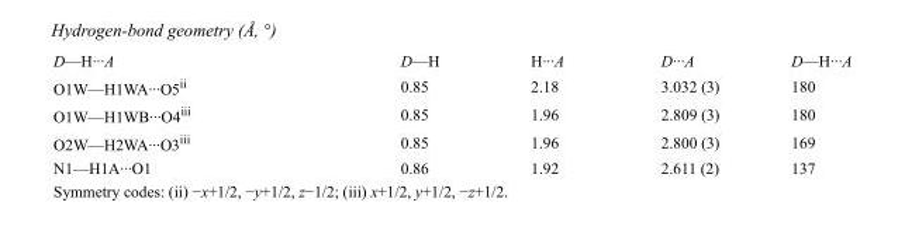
<table><tbody><tr><td>D—H···A</td><td>D—H</td><td>H···A</td><td>D···A</td><td>D—H···A</td></tr><tr><td>O1W—H1WA···O5<sup>ii</sup></td><td>0.85</td><td>2.18</td><td>3.032 (3)</td><td>180</td></tr><tr><td>O1W—H1WB···O4<sup>iii</sup></td><td>0.85</td><td>1.96</td><td>2.809 (3)</td><td>180</td></tr><tr><td>O2W—H2WA···O3<sup>iii</sup></td><td>0.85</td><td>1.96</td><td>2.800 (3)</td><td>169</td></tr><tr><td>N1—H1A···O1</td><td>0.86</td><td>1.92</td><td>2.611 (2)</td><td>137</td></tr></tbody></table>